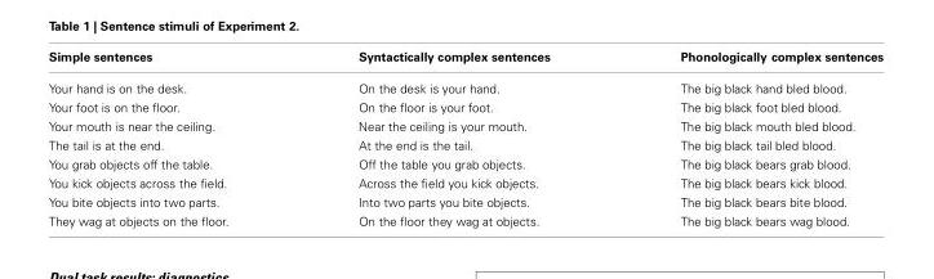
<table><thead><tr><td>Simple sentences</td><td>Syntactically complex sentences</td><td>Phonologically complex sentences</td></tr></thead><tbody><tr><td>Your hand is on the desk.</td><td>On the desk is your hand.</td><td>The big black hand bled blood.</td></tr><tr><td>Your foot is on the floor.</td><td>On the floor is your foot.</td><td>The big black foot bled blood.</td></tr><tr><td>Your mouth is near the ceiling.</td><td>Near the ceiling is your mouth.</td><td>The big black mouth bled blood.</td></tr><tr><td>The tail is at the end.</td><td>At the end is the tail.</td><td>The big black tail bled blood.</td></tr><tr><td>You grab objects off the table.</td><td>Off the table you grab objects.</td><td>The big black bears grab blood.</td></tr><tr><td>You kick objects across the field.</td><td>Across the field you kick objects.</td><td>The big black bears kick blood.</td></tr><tr><td>You bite objects into two parts.</td><td>Into two parts you bite objects.</td><td>The big black bears bite blood.</td></tr><tr><td>They wag at objects on the floor.</td><td>On the floor they wag at objects.</td><td>The big black bears wag blood.</td></tr></tbody></table>